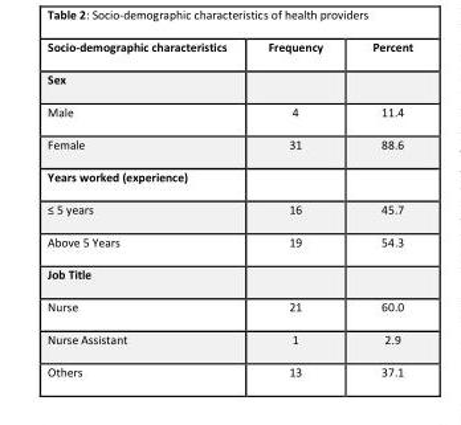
<table><thead><tr><td>Socio-demographic characteristics</td><td>Frequency</td><td>Percent</td></tr></thead><tbody><tr><td colspan="3">Sex</td></tr><tr><td>Male</td><td>4</td><td>11.4</td></tr><tr><td>Female</td><td>31</td><td>88.6</td></tr><tr><td colspan="3">Years worked (experience)</td></tr><tr><td>≤ 5 years</td><td>16</td><td>45.7</td></tr><tr><td>Above 5 Years</td><td>19</td><td>54.3</td></tr><tr><td colspan="3">Job Title</td></tr><tr><td>Nurse</td><td>21</td><td>60.0</td></tr><tr><td>Nurse Assistant</td><td>1</td><td>2.9</td></tr><tr><td>Others</td><td>13</td><td>37.1</td></tr></tbody></table>